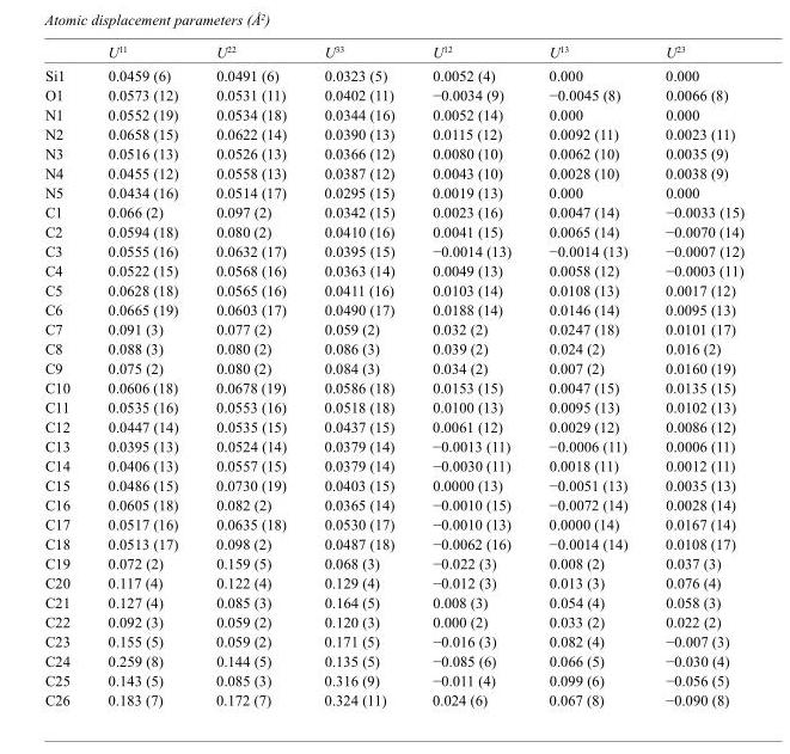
<table><thead><tr><td></td><td>U<sup>11</sup></td><td>U<sup>22</sup></td><td>U<sup>33</sup></td><td>U<sup>12</sup></td><td>U<sup>13</sup></td><td>U<sup>23</sup></td></tr></thead><tbody><tr><td>Si1</td><td>0.0459 (6)</td><td>0.0491 (6)</td><td>0.0323 (5)</td><td>0.0052 (4)</td><td>0.000</td><td>0.000</td></tr><tr><td>O1</td><td>0.0573 (12)</td><td>0.0531 (11)</td><td>0.0402 (11)</td><td>−0.0034 (9)</td><td>−0.0045 (8)</td><td>0.0066 (8)</td></tr><tr><td>N1</td><td>0.0552 (19)</td><td>0.0534 (18)</td><td>0.0344 (16)</td><td>0.0052 (14)</td><td>0.000</td><td>0.000</td></tr><tr><td>N2</td><td>0.0658 (15)</td><td>0.0622 (14)</td><td>0.0390 (13)</td><td>0.0115 (12)</td><td>0.0092 (11)</td><td>0.0023 (11)</td></tr><tr><td>N3</td><td>0.0516 (13)</td><td>0.0526 (13)</td><td>0.0366 (12)</td><td>0.0080 (10)</td><td>0.0062 (10)</td><td>0.0035 (9)</td></tr><tr><td>N4</td><td>0.0455 (12)</td><td>0.0558 (13)</td><td>0.0387 (12)</td><td>0.0043 (10)</td><td>0.0028 (10)</td><td>0.0038 (9)</td></tr><tr><td>N5</td><td>0.0434 (16)</td><td>0.0514 (17)</td><td>0.0295 (15)</td><td>0.0019 (13)</td><td>0.000</td><td>0.000</td></tr><tr><td>C1</td><td>0.066 (2)</td><td>0.097 (2)</td><td>0.0342 (15)</td><td>0.0023 (16)</td><td>0.0047 (14)</td><td>−0.0033 (15)</td></tr><tr><td>C2</td><td>0.0594 (18)</td><td>0.080 (2)</td><td>0.0410 (16)</td><td>0.0041 (15)</td><td>0.0065 (14)</td><td>−0.0070 (14)</td></tr><tr><td>C3</td><td>0.0555 (16)</td><td>0.0632 (17)</td><td>0.0395 (15)</td><td>−0.0014 (13)</td><td>−0.0014 (13)</td><td>−0.0007 (12)</td></tr><tr><td>C4</td><td>0.0522 (15)</td><td>0.0568 (16)</td><td>0.0363 (14)</td><td>0.0049 (13)</td><td>0.0058 (12)</td><td>−0.0003 (11)</td></tr><tr><td>C5</td><td>0.0628 (18)</td><td>0.0565 (16)</td><td>0.0411 (16)</td><td>0.0103 (14)</td><td>0.0108 (13)</td><td>0.0017 (12)</td></tr><tr><td>C6</td><td>0.0665 (19)</td><td>0.0603 (17)</td><td>0.0490 (17)</td><td>0.0188 (14)</td><td>0.0146 (14)</td><td>0.0095 (13)</td></tr><tr><td>C7</td><td>0.091 (3)</td><td>0.077 (2)</td><td>0.059 (2)</td><td>0.032 (2)</td><td>0.0247 (18)</td><td>0.0101 (17)</td></tr><tr><td>C8</td><td>0.088 (3)</td><td>0.080 (2)</td><td>0.086 (3)</td><td>0.039 (2)</td><td>0.024 (2)</td><td>0.016 (2)</td></tr><tr><td>C9</td><td>0.075 (2)</td><td>0.080 (2)</td><td>0.084 (3)</td><td>0.034 (2)</td><td>0.007 (2)</td><td>0.0160 (19)</td></tr><tr><td>C10</td><td>0.0606 (18)</td><td>0.0678 (19)</td><td>0.0586 (18)</td><td>0.0153 (15)</td><td>0.0047 (15)</td><td>0.0135 (15)</td></tr><tr><td>C11</td><td>0.0535 (16)</td><td>0.0553 (16)</td><td>0.0518 (18)</td><td>0.0100 (13)</td><td>0.0095 (13)</td><td>0.0102 (13)</td></tr><tr><td>C12</td><td>0.0447 (14)</td><td>0.0535 (15)</td><td>0.0437 (15)</td><td>0.0061 (12)</td><td>0.0029 (12)</td><td>0.0086 (12)</td></tr><tr><td>C13</td><td>0.0395 (13)</td><td>0.0524 (14)</td><td>0.0379 (14)</td><td>−0.0013 (11)</td><td>−0.0006 (11)</td><td>0.0006 (11)</td></tr><tr><td>C14</td><td>0.0406 (13)</td><td>0.0557 (15)</td><td>0.0379 (14)</td><td>−0.0030 (11)</td><td>0.0018 (11)</td><td>0.0012 (11)</td></tr><tr><td>C15</td><td>0.0486 (15)</td><td>0.0730 (19)</td><td>0.0403 (15)</td><td>0.0000 (13)</td><td>−0.0051 (13)</td><td>0.0035 (13)</td></tr><tr><td>C16</td><td>0.0605 (18)</td><td>0.082 (2)</td><td>0.0365 (14)</td><td>−0.0010 (15)</td><td>−0.0072 (14)</td><td>0.0028 (14)</td></tr><tr><td>C17</td><td>0.0517 (16)</td><td>0.0635 (18)</td><td>0.0530 (17)</td><td>−0.0010 (13)</td><td>0.0000 (14)</td><td>0.0167 (14)</td></tr><tr><td>C18</td><td>0.0513 (17)</td><td>0.098 (2)</td><td>0.0487 (18)</td><td>−0.0062 (16)</td><td>−0.0014 (14)</td><td>0.0108 (17)</td></tr><tr><td>C19</td><td>0.072 (2)</td><td>0.159 (5)</td><td>0.068 (3)</td><td>−0.022 (3)</td><td>0.008 (2)</td><td>0.037 (3)</td></tr><tr><td>C20</td><td>0.117 (4)</td><td>0.122 (4)</td><td>0.129 (4)</td><td>−0.012 (3)</td><td>0.013 (3)</td><td>0.076 (4)</td></tr><tr><td>C21</td><td>0.127 (4)</td><td>0.085 (3)</td><td>0.164 (5)</td><td>0.008 (3)</td><td>0.054 (4)</td><td>0.058 (3)</td></tr><tr><td>C22</td><td>0.092 (3)</td><td>0.059 (2)</td><td>0.120 (3)</td><td>0.000 (2)</td><td>0.033 (2)</td><td>0.022 (2)</td></tr><tr><td>C23</td><td>0.155 (5)</td><td>0.059 (2)</td><td>0.171 (5)</td><td>−0.016 (3)</td><td>0.082 (4)</td><td>−0.007 (3)</td></tr><tr><td>C24</td><td>0.259 (8)</td><td>0.144 (5)</td><td>0.135 (5)</td><td>−0.085 (6)</td><td>0.066 (5)</td><td>−0.030 (4)</td></tr><tr><td>C25</td><td>0.143 (5)</td><td>0.085 (3)</td><td>0.316 (9)</td><td>−0.011 (4)</td><td>0.099 (6)</td><td>−0.056 (5)</td></tr><tr><td>C26</td><td>0.183 (7)</td><td>0.172 (7)</td><td>0.324 (11)</td><td>0.024 (6)</td><td>0.067 (8)</td><td>−0.090 (8)</td></tr></tbody></table>